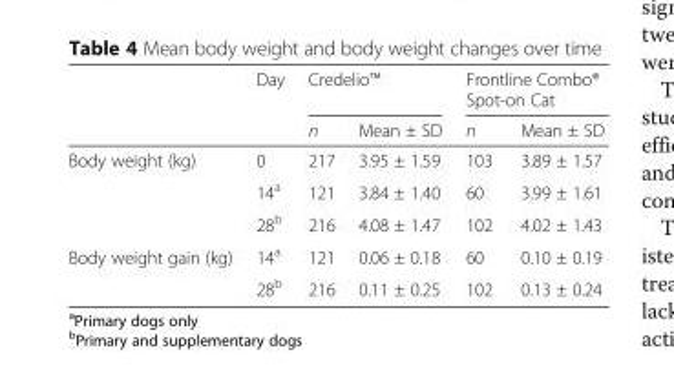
<table><thead><tr><td rowspan="2"></td><td rowspan="2">Day</td><td colspan="2">Credelio™</td><td colspan="2">Frontline Combo® Spot-on Cat</td></tr><tr><td>n</td><td>Mean ± SD</td><td>n</td><td>Mean ± SD</td></tr></thead><tbody><tr><td rowspan="3">Body weight (kg)</td><td>0</td><td>217</td><td>3.95 ± 1.59</td><td>103</td><td>3.89 ± 1.57</td></tr><tr><td>14<sup>a</sup></td><td>121</td><td>3.84 ± 1.40</td><td>60</td><td>3.99 ± 1.61</td></tr><tr><td>28<sup>b</sup></td><td>216</td><td>4.08 ± 1.47</td><td>102</td><td>4.02 ± 1.43</td></tr><tr><td rowspan="2">Body weight gain (kg)</td><td>14<sup>a</sup></td><td>121</td><td>0.06 ± 0.18</td><td>60</td><td>0.10 ± 0.19</td></tr><tr><td>28<sup>b</sup></td><td>216</td><td>0.11 ± 0.25</td><td>102</td><td>0.13 ± 0.24</td></tr></tbody></table>